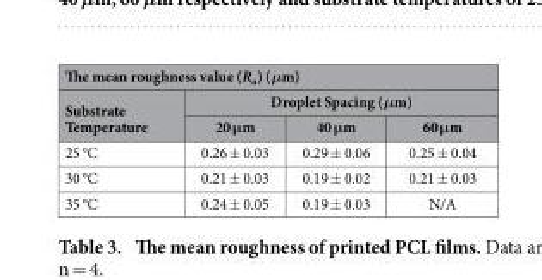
<table><thead><tr><td colspan="4">The mean roughness value (R<sub>a</sub>) (μm)</td></tr><tr><td rowspan="2">Substrate Temperature</td><td colspan="3">Droplet Spacing (μm)</td></tr><tr><td>20 μm</td><td>40 μm</td><td>60 μm</td></tr></thead><tbody><tr><td>25 °C</td><td>0.26 ± 0.03</td><td>0.29 ± 0.06</td><td>0.25 ± 0.04</td></tr><tr><td>30 °C</td><td>0.21 ± 0.03</td><td>0.19 ± 0.02</td><td>0.21 ± 0.03</td></tr><tr><td>35 °C</td><td>0.24 ± 0.05</td><td>0.19 ± 0.03</td><td>N/A</td></tr></tbody></table>